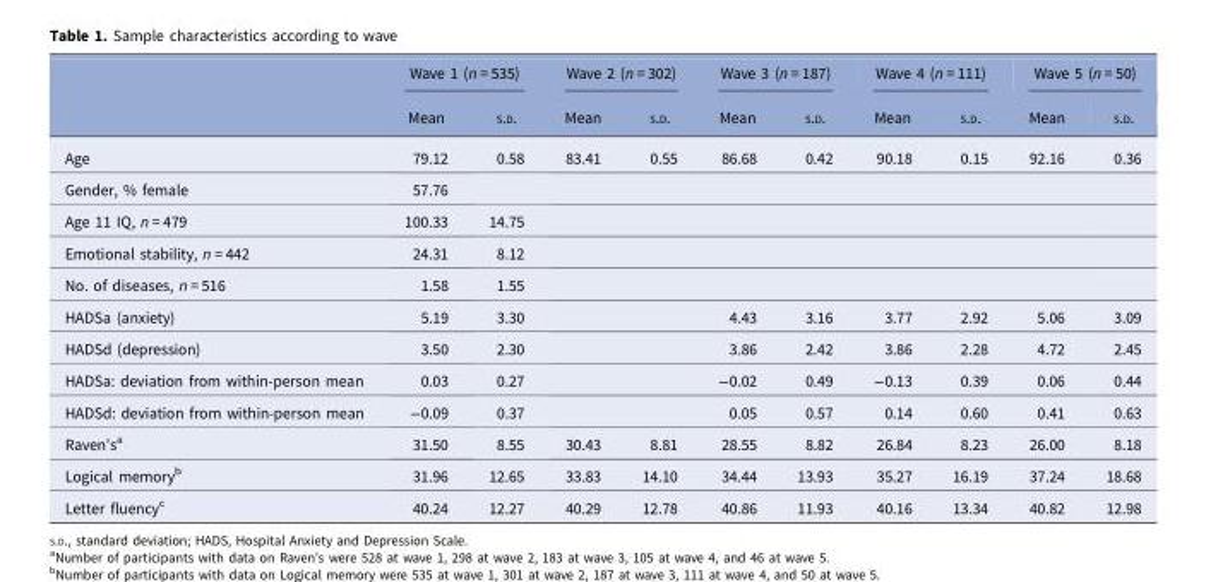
<table><thead><tr><td rowspan="2"></td><td colspan="2">Wave 1 (n = 535)</td><td colspan="2">Wave 2 (n = 302)</td><td colspan="2">Wave 3 (n = 187)</td><td colspan="2">Wave 4 (n = 111)</td><td colspan="2">Wave 5 (n = 50)</td></tr><tr><td>Mean</td><td>S.D.</td><td>Mean</td><td>S.D.</td><td>Mean</td><td>S.D.</td><td>Mean</td><td>S.D.</td><td>Mean</td><td>S.D.</td></tr></thead><tbody><tr><td>Age</td><td>79.12</td><td>0.58</td><td>83.41</td><td>0.55</td><td>86.68</td><td>0.42</td><td>90.18</td><td>0.15</td><td>92.16</td><td>0.36</td></tr><tr><td>Gender, % female</td><td>57.76</td><td></td><td></td><td></td><td></td><td></td><td></td><td></td><td></td><td></td></tr><tr><td>Age 11 IQ, n = 479</td><td>100.33</td><td>14.75</td><td></td><td></td><td></td><td></td><td></td><td></td><td></td><td></td></tr><tr><td>Emotional stability, n = 442</td><td>24.31</td><td>8.12</td><td></td><td></td><td></td><td></td><td></td><td></td><td></td><td></td></tr><tr><td>No. of diseases, n = 516</td><td>1.58</td><td>1.55</td><td></td><td></td><td></td><td></td><td></td><td></td><td></td><td></td></tr><tr><td>HADSa (anxiety)</td><td>5.19</td><td>3.30</td><td></td><td></td><td>4.43</td><td>3.16</td><td>3.77</td><td>2.92</td><td>5.06</td><td>3.09</td></tr><tr><td>HADSd (depression)</td><td>3.50</td><td>2.30</td><td></td><td></td><td>3.86</td><td>2.42</td><td>3.86</td><td>2.28</td><td>4.72</td><td>2.45</td></tr><tr><td>HADSa: deviation from within-person mean</td><td>0.03</td><td>0.27</td><td></td><td></td><td>−0.02</td><td>0.49</td><td>−0.13</td><td>0.39</td><td>0.06</td><td>0.44</td></tr><tr><td>HADSd: deviation from within-person mean</td><td>−0.09</td><td>0.37</td><td></td><td></td><td>0.05</td><td>0.57</td><td>0.14</td><td>0.60</td><td>0.41</td><td>0.63</td></tr><tr><td>Raven’s<sup>a</sup></td><td>31.50</td><td>8.55</td><td>30.43</td><td>8.81</td><td>28.55</td><td>8.82</td><td>26.84</td><td>8.23</td><td>26.00</td><td>8.18</td></tr><tr><td>Logical memory<sup>b</sup></td><td>31.96</td><td>12.65</td><td>33.83</td><td>14.10</td><td>34.44</td><td>13.93</td><td>35.27</td><td>16.19</td><td>37.24</td><td>18.68</td></tr><tr><td>Letter fluency<sup>c</sup></td><td>40.24</td><td>12.27</td><td>40.29</td><td>12.78</td><td>40.86</td><td>11.93</td><td>40.16</td><td>13.34</td><td>40.82</td><td>12.98</td></tr></tbody></table>